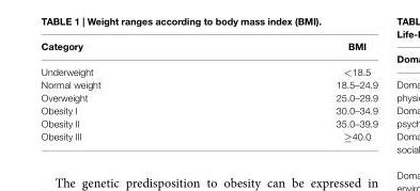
<table><thead><tr><td>Category</td><td>BMI</td></tr></thead><tbody><tr><td>Underweight</td><td>&lt;18.5</td></tr><tr><td>Normal weight</td><td>18.5–24.9</td></tr><tr><td>Overweight</td><td>25.0–29.9</td></tr><tr><td>Obesity I</td><td>30.0–34.9</td></tr><tr><td>Obesity II</td><td>35.0–39.9</td></tr><tr><td>Obesity III</td><td>≥40.0</td></tr></tbody></table>